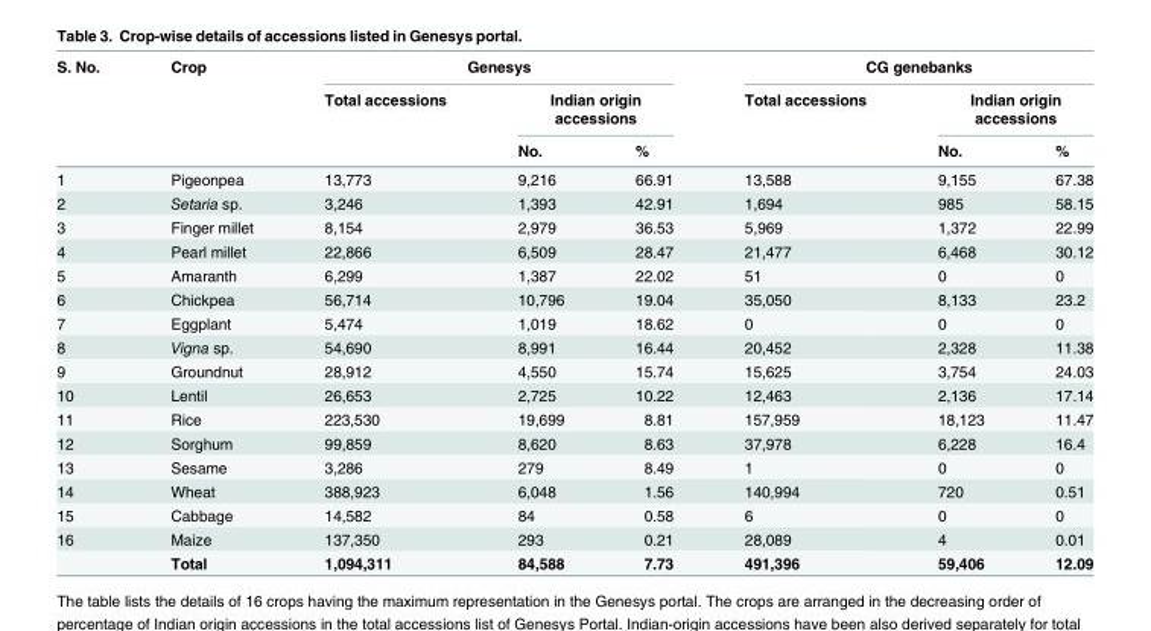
<table><thead><tr><td rowspan="3">S. No.</td><td rowspan="3">Crop</td><td colspan="3">Genesys</td><td colspan="3">CG genebanks</td></tr><tr><td rowspan="2">Total accessions</td><td colspan="2">Indian origin accessions</td><td rowspan="2">Total accessions</td><td colspan="2">Indian origin accessions</td></tr><tr><td>No.</td><td>%</td><td>No.</td><td>%</td></tr></thead><tbody><tr><td>1</td><td>Pigeonpea</td><td>13,773</td><td>9,216</td><td>66.91</td><td>13,588</td><td>9,155</td><td>67.38</td></tr><tr><td>2</td><td>Setaria sp.</td><td>3,246</td><td>1,393</td><td>42.91</td><td>1,694</td><td>985</td><td>58.15</td></tr><tr><td>3</td><td>Finger millet</td><td>8,154</td><td>2,979</td><td>36.53</td><td>5,969</td><td>1,372</td><td>22.99</td></tr><tr><td>4</td><td>Pearl millet</td><td>22,866</td><td>6,509</td><td>28.47</td><td>21,477</td><td>6,468</td><td>30.12</td></tr><tr><td>5</td><td>Amaranth</td><td>6,299</td><td>1,387</td><td>22.02</td><td>51</td><td>0</td><td>0</td></tr><tr><td>6</td><td>Chickpea</td><td>56,714</td><td>10,796</td><td>19.04</td><td>35,050</td><td>8,133</td><td>23.2</td></tr><tr><td>7</td><td>Eggplant</td><td>5,474</td><td>1,019</td><td>18.62</td><td>0</td><td>0</td><td>0</td></tr><tr><td>8</td><td>Vigna sp.</td><td>54,690</td><td>8,991</td><td>16.44</td><td>20,452</td><td>2,328</td><td>11.38</td></tr><tr><td>9</td><td>Groundnut</td><td>28,912</td><td>4,550</td><td>15.74</td><td>15,625</td><td>3,754</td><td>24.03</td></tr><tr><td>10</td><td>Lentil</td><td>26,653</td><td>2,725</td><td>10.22</td><td>12,463</td><td>2,136</td><td>17.14</td></tr><tr><td>11</td><td>Rice</td><td>223,530</td><td>19,699</td><td>8.81</td><td>157,959</td><td>18,123</td><td>11.47</td></tr><tr><td>12</td><td>Sorghum</td><td>99,859</td><td>8,620</td><td>8.63</td><td>37,978</td><td>6,228</td><td>16.4</td></tr><tr><td>13</td><td>Sesame</td><td>3,286</td><td>279</td><td>8.49</td><td>1</td><td>0</td><td>0</td></tr><tr><td>14</td><td>Wheat</td><td>388,923</td><td>6,048</td><td>1.56</td><td>140,994</td><td>720</td><td>0.51</td></tr><tr><td>15</td><td>Cabbage</td><td>14,582</td><td>84</td><td>0.58</td><td>6</td><td>0</td><td>0</td></tr><tr><td rowspan="2">16</td><td>Maize</td><td>137,350</td><td>293</td><td>0.21</td><td>28,089</td><td>4</td><td>0.01</td></tr><tr><td>Total</td><td>1,094,311</td><td>84,588</td><td>7.73</td><td>491,396</td><td>59,406</td><td>12.09</td></tr></tbody></table>